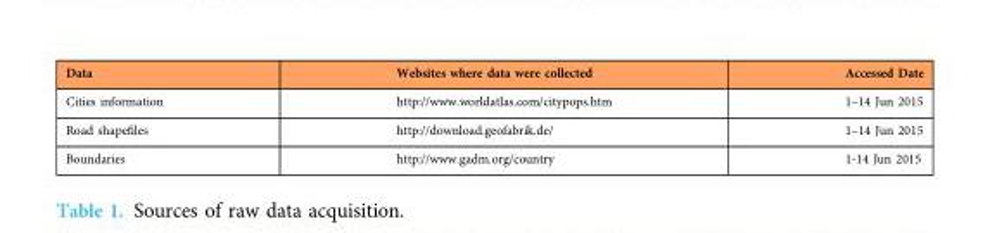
<table><thead><tr><td>Data</td><td>Websites where data were collected</td><td>Accessed Date</td></tr></thead><tbody><tr><td>Cities information</td><td>http://www.worldatlas.com/citypops.htm</td><td>1–14 Jun 2015</td></tr><tr><td>Road shapefiles</td><td>http://download.geofabrik.de/</td><td>1–14 Jun 2015</td></tr><tr><td>Boundaries</td><td>http://www.gadm.org/country</td><td>1-14 Jun 2015</td></tr></tbody></table>